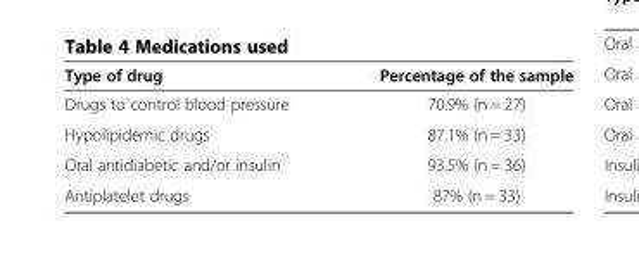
<table><thead><tr><td>Type of drug</td><td>Percentage of the sample</td></tr></thead><tbody><tr><td>Drugs to control blood pressure</td><td>70.9% (n = 27)</td></tr><tr><td>Hypolipidemic drugs</td><td>87.1% (n = 33)</td></tr><tr><td>Oral antidiabetic and/or insulin</td><td>93.5% (n = 36)</td></tr><tr><td>Antiplatelet drugs</td><td>87% (n = 33)</td></tr></tbody></table>